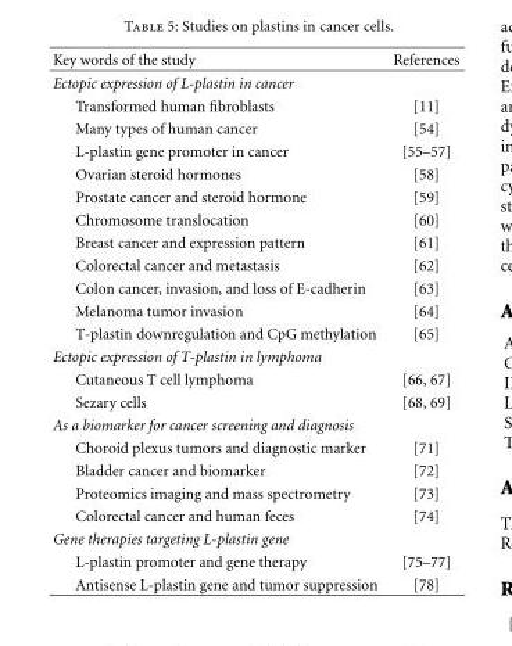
<table><thead><tr><td>Key words of the study</td><td>References</td></tr></thead><tbody><tr><td colspan="2">Ectopic expression of L-plastin in cancer</td></tr><tr><td>Transformed human fibroblasts</td><td>[11]</td></tr><tr><td>Many types of human cancer</td><td>[54]</td></tr><tr><td>L-plastin gene promoter in cancer</td><td>[55–57]</td></tr><tr><td>Ovarian steroid hormones</td><td>[58]</td></tr><tr><td>Prostate cancer and steroid hormone</td><td>[59]</td></tr><tr><td>Chromosome translocation</td><td>[60]</td></tr><tr><td>Breast cancer and expression pattern</td><td>[61]</td></tr><tr><td>Colorectal cancer and metastasis</td><td>[62]</td></tr><tr><td>Colon cancer, invasion, and loss of E-cadherin</td><td>[63]</td></tr><tr><td>Melanoma tumor invasion</td><td>[64]</td></tr><tr><td>T-plastin downregulation and CpG methylation</td><td>[65]</td></tr><tr><td colspan="2">Ectopic expression of T-plastin in lymphoma</td></tr><tr><td>Cutaneous T cell lymphoma</td><td>[66, 67]</td></tr><tr><td>Sezary cells</td><td>[68, 69]</td></tr><tr><td colspan="2">As a biomarker for cancer screening and diagnosis</td></tr><tr><td>Choroid plexus tumors and diagnostic marker</td><td>[71]</td></tr><tr><td>Bladder cancer and biomarker</td><td>[72]</td></tr><tr><td>Proteomics imaging and mass spectrometry</td><td>[73]</td></tr><tr><td>Colorectal cancer and human feces</td><td>[74]</td></tr><tr><td colspan="2">Gene therapies targeting L-plastin gene</td></tr><tr><td>L-plastin promoter and gene therapy</td><td>[75–77]</td></tr><tr><td>Antisense L-plastin gene and tumor suppression</td><td>[78]</td></tr></tbody></table>